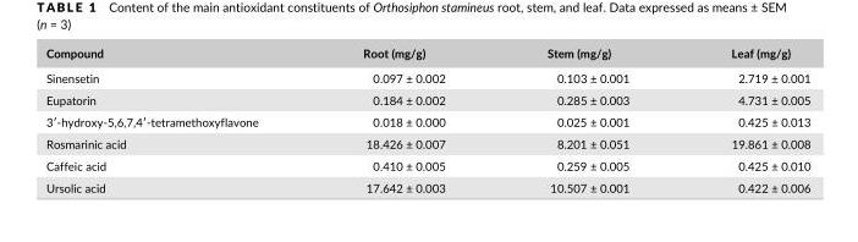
<table><thead><tr><td>Compound</td><td>Root (mg/g)</td><td>Stem (mg/g)</td><td>Leaf (mg/g)</td></tr></thead><tbody><tr><td>Sinensetin</td><td>0.097 ± 0.002</td><td>0.103 ± 0.001</td><td>2.719 ± 0.001</td></tr><tr><td>Eupatorin</td><td>0.184 ± 0.002</td><td>0.285 ± 0.003</td><td>4.731 ± 0.005</td></tr><tr><td>3′- hydroxy- 5,6,7,4′- tetramethoxyflavone</td><td>0.018 ± 0.000</td><td>0.025 ± 0.001</td><td>0.425 ± 0.013</td></tr><tr><td>Rosmarinic acid</td><td>18.426 ± 0.007</td><td>8.201 ± 0.051</td><td>19.861 ± 0.008</td></tr><tr><td>Caffeic acid</td><td>0.410 ± 0.005</td><td>0.259 ± 0.005</td><td>0.425 ± 0.010</td></tr><tr><td>Ursolic acid</td><td>17.642 ± 0.003</td><td>10.507 ± 0.001</td><td>0.422 ± 0.006</td></tr></tbody></table>